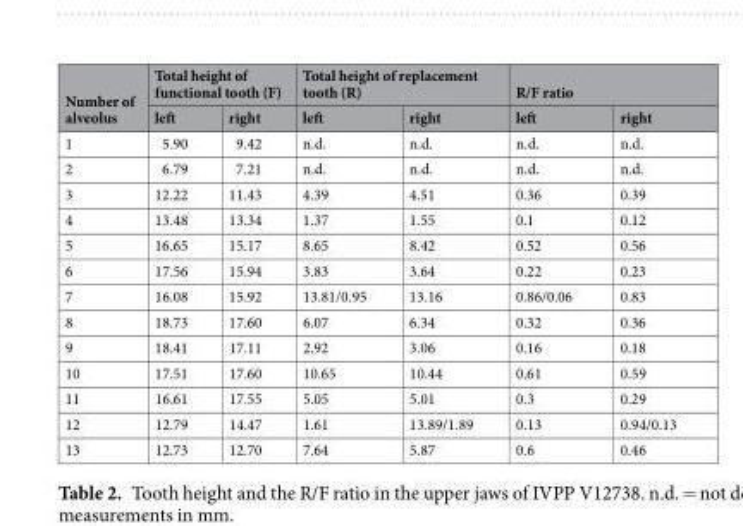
<table><thead><tr><td rowspan="2">Number of alveolus</td><td colspan="2">Total height of functional tooth (F)</td><td colspan="2">Total height of replacement tooth (R)</td><td colspan="2">R/F ratio</td></tr><tr><td>left</td><td>right</td><td>left</td><td>right</td><td>left</td><td>right</td></tr></thead><tbody><tr><td>1</td><td>5.90</td><td>9.42</td><td>n.d.</td><td>n.d.</td><td>n.d.</td><td>n.d.</td></tr><tr><td>2</td><td>6.79</td><td>7.21</td><td>n.d.</td><td>n.d.</td><td>n.d.</td><td>n.d.</td></tr><tr><td>3</td><td>12.22</td><td>11.43</td><td>4.39</td><td>4.51</td><td>0.36</td><td>0.39</td></tr><tr><td>4</td><td>13.48</td><td>13.34</td><td>1.37</td><td>1.55</td><td>0.1</td><td>0.12</td></tr><tr><td>5</td><td>16.65</td><td>15.17</td><td>8.65</td><td>8.42</td><td>0.52</td><td>0.56</td></tr><tr><td>6</td><td>17.56</td><td>15.94</td><td>3.83</td><td>3.64</td><td>0.22</td><td>0.23</td></tr><tr><td>7</td><td>16.08</td><td>15.92</td><td>13.81/0.95</td><td>13.16</td><td>0.86/0.06</td><td>0.83</td></tr><tr><td>8</td><td>18.73</td><td>17.60</td><td>6.07</td><td>6.34</td><td>0.32</td><td>0.36</td></tr><tr><td>9</td><td>18.41</td><td>17.11</td><td>2.92</td><td>3.06</td><td>0.16</td><td>0.18</td></tr><tr><td>10</td><td>17.51</td><td>17.60</td><td>10.65</td><td>10.44</td><td>0.61</td><td>0.59</td></tr><tr><td>11</td><td>16.61</td><td>17.55</td><td>5.05</td><td>5.01</td><td>0.3</td><td>0.29</td></tr><tr><td>12</td><td>12.79</td><td>14.47</td><td>1.61</td><td>13.89/1.89</td><td>0.13</td><td>0.94/0.13</td></tr><tr><td>13</td><td>12.73</td><td>12.70</td><td>7.64</td><td>5.87</td><td>0.6</td><td>0.46</td></tr></tbody></table>